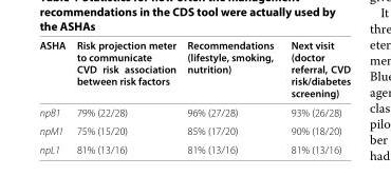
<table><thead><tr><td>ASHA</td><td>Risk projection meter to communicate CVD risk association between risk factors</td><td>Recommendations (lifestyle, smoking, nutrition)</td><td>Next visit (doctor referral, CVD risk/diabetes screening)</td></tr></thead><tbody><tr><td>npB1</td><td>79% (22/28)</td><td>96% (27/28)</td><td>93% (26/28)</td></tr><tr><td>npM1</td><td>75% (15/20)</td><td>85% (17/20)</td><td>90% (18/20)</td></tr><tr><td>npL1</td><td>81% (13/16)</td><td>81% (13/16)</td><td>81% (13/16)</td></tr></tbody></table>